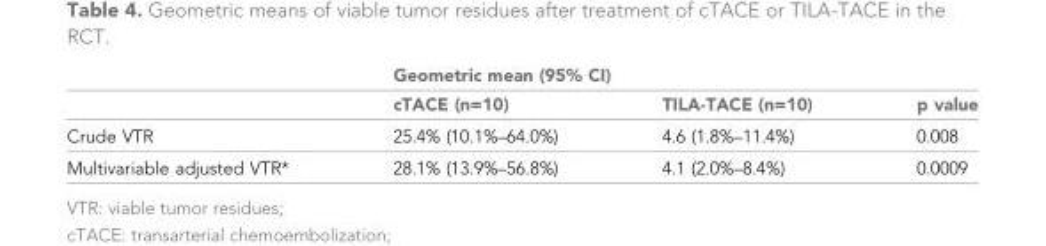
<table><thead><tr><td rowspan="2"></td><td colspan="2">Geometric mean (95% CI)</td><td rowspan="2">p value</td></tr><tr><td>cTACE (n=10)</td><td>TILA-TACE (n=10)</td></tr></thead><tbody><tr><td>Crude VTR</td><td>25.4% (10.1%–64.0%)</td><td>4.6 (1.8%–11.4%)</td><td>0.008</td></tr><tr><td>Multivariable adjusted VTR*</td><td>28.1% (13.9%–56.8%)</td><td>4.1 (2.0%–8.4%)</td><td>0.0009</td></tr></tbody></table>